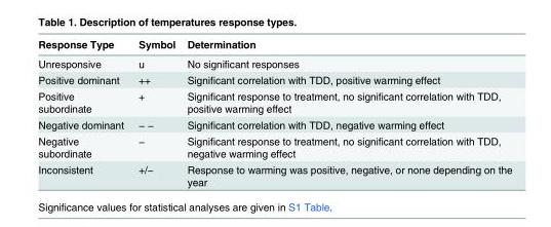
<table><thead><tr><td>Response Type</td><td>Symbol</td><td>Determination</td></tr></thead><tbody><tr><td>Unresponsive</td><td>u</td><td>No significant responses</td></tr><tr><td>Positive dominant</td><td>++</td><td>Significant correlation with TDD, positive warming effect</td></tr><tr><td>Positive subordinate</td><td>+</td><td>Significant response to treatment, no significant correlation with TDD, positive warming effect</td></tr><tr><td>Negative dominant</td><td>− −</td><td>Significant correlation with TDD, negative warming effect</td></tr><tr><td>Negative subordinate</td><td>−</td><td>Significant response to treatment, no significant correlation with TDD, negative warming effect</td></tr><tr><td>Inconsistent</td><td>+/−</td><td>Response to warming was positive, negative, or none depending on the year</td></tr></tbody></table>